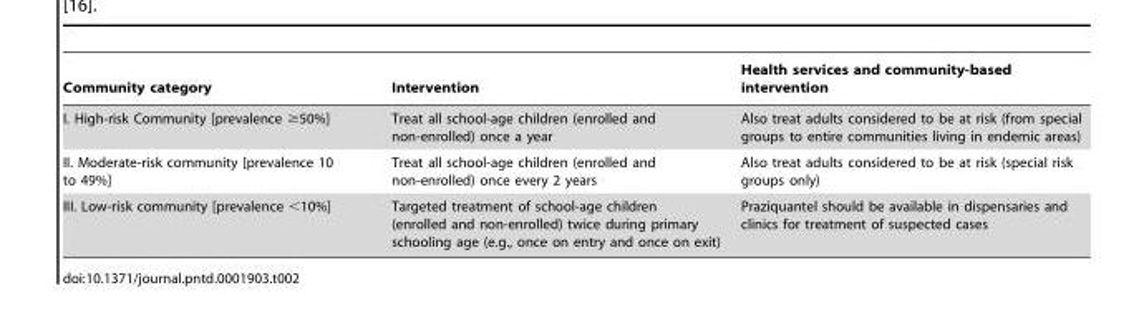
<table><thead><tr><td>Community category</td><td>Intervention</td><td>Health services and community-based intervention</td></tr></thead><tbody><tr><td>I. High-risk Community [prevalence ≥50%]</td><td>Treat all school-age children (enrolled and non-enrolled) once a year</td><td>Also treat adults considered to be at risk (from special groups to entire communities living in endemic areas)</td></tr><tr><td>II. Moderate-risk community [prevalence 10 to 49%]</td><td>Treat all school-age children (enrolled and non-enrolled) once every 2 years</td><td>Also treat adults considered to be at risk (special risk groups only)</td></tr><tr><td>III. Low-risk community [prevalence &lt;10%]</td><td>Targeted treatment of school-age children (enrolled and non-enrolled) twice during primary schooling age (e.g., once on entry and once on exit)</td><td>Praziquantel should be available in dispensaries and clinics for treatment of suspected cases</td></tr></tbody></table>